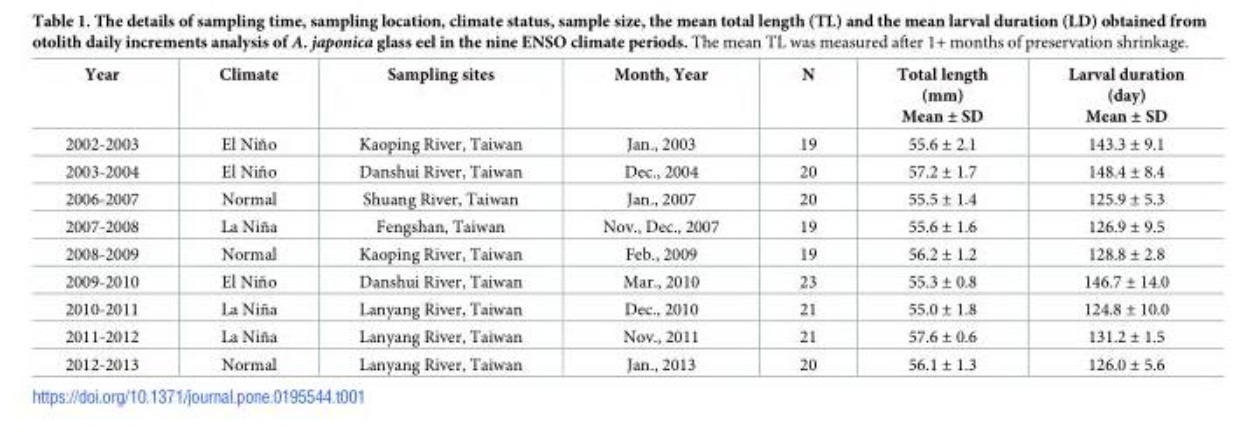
<table><thead><tr><td>Year</td><td>Climate</td><td>Sampling sites</td><td>Month, Year</td><td>N</td><td>Total length (mm) Mean ± SD</td><td>Larval duration (day) Mean ± SD</td></tr></thead><tbody><tr><td>2002-2003</td><td>El Niño</td><td>Kaoping River, Taiwan</td><td>Jan., 2003</td><td>19</td><td>55.6 ± 2.1</td><td>143.3 ± 9.1</td></tr><tr><td>2003-2004</td><td>El Niño</td><td>Danshui River, Taiwan</td><td>Dec., 2004</td><td>20</td><td>57.2 ± 1.7</td><td>148.4 ± 8.4</td></tr><tr><td>2006-2007</td><td>Normal</td><td>Shuang River, Taiwan</td><td>Jan., 2007</td><td>20</td><td>55.5 ± 1.4</td><td>125.9 ± 5.3</td></tr><tr><td>2007-2008</td><td>La Niña</td><td>Fengshan, Taiwan</td><td>Nov., Dec., 2007</td><td>19</td><td>55.6 ± 1.6</td><td>126.9 ± 9.5</td></tr><tr><td>2008-2009</td><td>Normal</td><td>Kaoping River, Taiwan</td><td>Feb., 2009</td><td>19</td><td>56.2 ± 1.2</td><td>128.8 ± 2.8</td></tr><tr><td>2009-2010</td><td>El Niño</td><td>Danshui River, Taiwan</td><td>Mar., 2010</td><td>23</td><td>55.3 ± 0.8</td><td>146.7 ± 14.0</td></tr><tr><td>2010-2011</td><td>La Niña</td><td>Lanyang River, Taiwan</td><td>Dec., 2010</td><td>21</td><td>55.0 ± 1.8</td><td>124.8 ± 10.0</td></tr><tr><td>2011-2012</td><td>La Niña</td><td>Lanyang River, Taiwan</td><td>Nov., 2011</td><td>21</td><td>57.6 ± 0.6</td><td>131.2 ± 1.5</td></tr><tr><td>2012-2013</td><td>Normal</td><td>Lanyang River, Taiwan</td><td>Jan., 2013</td><td>20</td><td>56.1 ± 1.3</td><td>126.0 ± 5.6</td></tr></tbody></table>